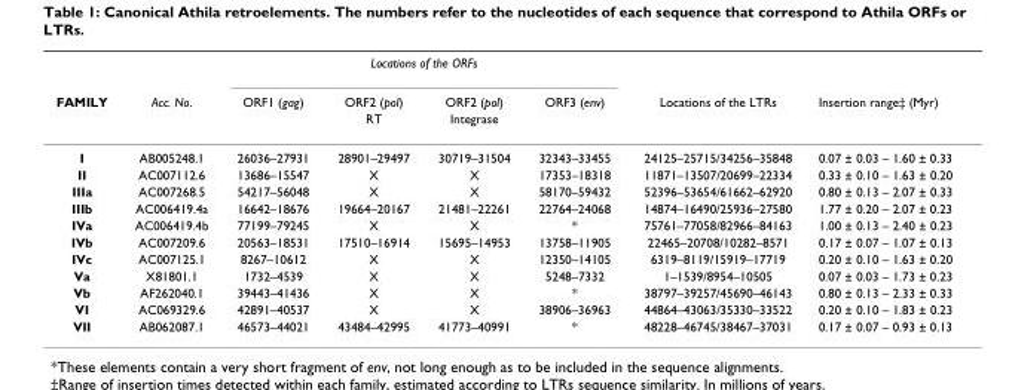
<table><thead><tr><td rowspan="3">FAMILY</td><td rowspan="3">Acc. No.</td><td colspan="4">Locations of the ORFs</td><td rowspan="3">Locations of the LTRs</td><td rowspan="3">Insertion range‡ (Myr)</td></tr><tr><td rowspan="2">ORF1 (gag)</td><td rowspan="2">ORF2 (pol) RT</td><td rowspan="2">ORF2 (pol) Integrase</td><td rowspan="2">ORF3 (env)</td></tr><tr></tr></thead><tbody><tr><td>I</td><td>AB005248.1</td><td>26036–27931</td><td>28901–29497</td><td>30719–31504</td><td>32343–33455</td><td>24125–25715/34256–35848</td><td>0.07 ± 0.03 – 1.60 ± 0.33</td></tr><tr><td>II</td><td>AC007112.6</td><td>13686–15547</td><td>X</td><td>X</td><td>17353–18318</td><td>11871–13507/20699–22334</td><td>0.33 ± 0.10 – 1.63 ± 0.20</td></tr><tr><td>IIIa</td><td>AC007268.5</td><td>54217–56048</td><td>X</td><td>X</td><td>58170–59432</td><td>52396–53654/61662–62920</td><td>0.80 ± 0.13 – 2.07 ± 0.33</td></tr><tr><td>IIIb</td><td>AC006419.4a</td><td>16642–18676</td><td>19664–20167</td><td>21481–22261</td><td>22764–24068</td><td>14874–16490/25936–27580</td><td>1.77 ± 0.20 – 2.07 ± 0.23</td></tr><tr><td>IVa</td><td>AC006419.4b</td><td>77199–79245</td><td>X</td><td>X</td><td>*</td><td>75761–77058/82966–84163</td><td>1.00 ± 0.13 – 2.40 ± 0.23</td></tr><tr><td>IVb</td><td>AC007209.6</td><td>20563–18531</td><td>17510–16914</td><td>15695–14953</td><td>13758–11905</td><td>22465–20708/10282–8571</td><td>0.17 ± 0.07 – 1.07 ± 0.13</td></tr><tr><td>IVc</td><td>AC007125.1</td><td>8267–10612</td><td>X</td><td>X</td><td>12350–14105</td><td>6319–8119/15919–17719</td><td>0.20 ± 0.10 – 1.63 ± 0.20</td></tr><tr><td>Va</td><td>X81801.1</td><td>1732–4539</td><td>X</td><td>X</td><td>5248–7332</td><td>1–1539/8954–10505</td><td>0.07 ± 0.03 – 1.73 ± 0.23</td></tr><tr><td>Vb</td><td>AF262040.1</td><td>39443–41436</td><td>X</td><td>X</td><td>*</td><td>38797–39257/45690–46143</td><td>0.80 ± 0.13 – 2.33 ± 0.33</td></tr><tr><td>VI</td><td>AC069329.6</td><td>42891–40537</td><td>X</td><td>X</td><td>38906–36963</td><td>44864–43063/35330–33522</td><td>0.20 ± 0.10 – 1.83 ± 0.23</td></tr><tr><td>VII</td><td>AB062087.1</td><td>46573–44021</td><td>43484–42995</td><td>41773–40991</td><td>*</td><td>48228–46745/38467–37031</td><td>0.17 ± 0.07 – 0.93 ± 0.13</td></tr></tbody></table>